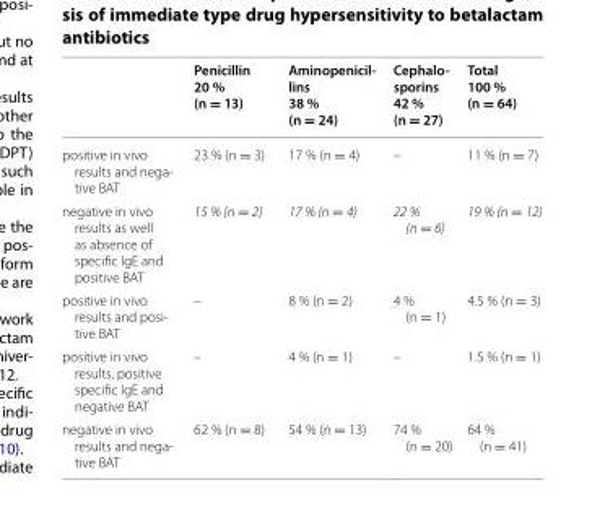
<table><thead><tr><td></td><td>Penicillin 20 % (n = 13)</td><td>Aminopenicil- lins 38 % (n = 24)</td><td>Cephalo- sporins 42 % (n = 27)</td><td>Total 100 % (n = 64)</td></tr></thead><tbody><tr><td>positive in vivo results and nega‑ tive BAT</td><td>23 % (n = 3)</td><td>17 % (n = 4)</td><td>–</td><td>11 % (n = 7)</td></tr><tr><td>negative in vivo results as well as absence of specific IgE and positive BAT</td><td>15 % (n = 2)</td><td>17 % (n = 4)</td><td>22 % (n = 6)</td><td>19 % (n = 12)</td></tr><tr><td>positive in vivo results and posi‑ tive BAT</td><td>–</td><td>8 % (n = 2)</td><td>4 % (n = 1)</td><td>4.5 % (n = 3)</td></tr><tr><td>positive in vivo results, positive specific IgE and negative BAT</td><td>–</td><td>4 % (n = 1)</td><td>–</td><td>1.5 % (n = 1)</td></tr><tr><td>negative in vivo results and nega‑ tive BAT</td><td>62 % (n = 8)</td><td>54 % (n = 13)</td><td>74 % (n = 20)</td><td>64 % (n = 41)</td></tr></tbody></table>